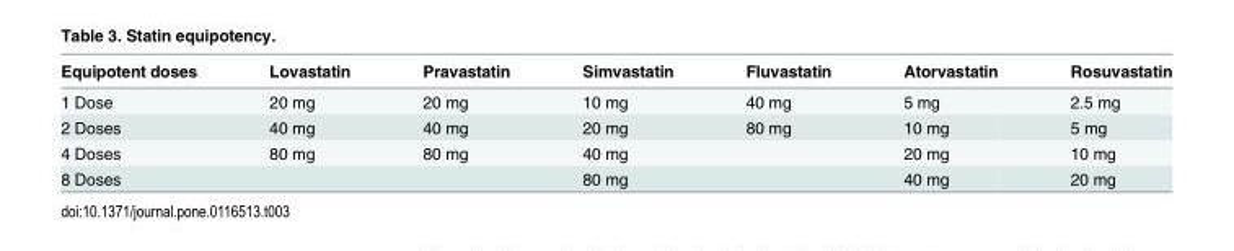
<table><thead><tr><td>Equipotent doses</td><td>Lovastatin</td><td>Pravastatin</td><td>Simvastatin</td><td>Fluvastatin</td><td>Atorvastatin</td><td>Rosuvastatin</td></tr></thead><tbody><tr><td>1 Dose</td><td>20 mg</td><td>20 mg</td><td>10 mg</td><td>40 mg</td><td>5 mg</td><td>2.5 mg</td></tr><tr><td>2 Doses</td><td>40 mg</td><td>40 mg</td><td>20 mg</td><td>80 mg</td><td>10 mg</td><td>5 mg</td></tr><tr><td>4 Doses</td><td>80 mg</td><td>80 mg</td><td>40 mg</td><td></td><td>20 mg</td><td>10 mg</td></tr><tr><td>8 Doses</td><td></td><td></td><td>80 mg</td><td></td><td>40 mg</td><td>20 mg</td></tr></tbody></table>